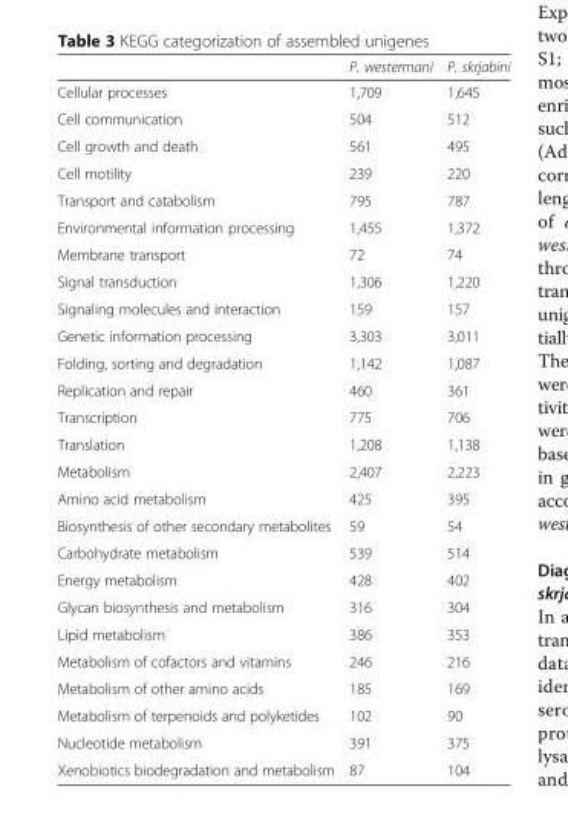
<table><thead><tr><td></td><td>P. westermani</td><td>P. skrjabini</td></tr></thead><tbody><tr><td>Cellular processes</td><td>1,709</td><td>1,645</td></tr><tr><td>Cell communication</td><td>504</td><td>512</td></tr><tr><td>Cell growth and death</td><td>561</td><td>495</td></tr><tr><td>Cell motility</td><td>239</td><td>220</td></tr><tr><td>Transport and catabolism</td><td>795</td><td>787</td></tr><tr><td>Environmental information processing</td><td>1,455</td><td>1,372</td></tr><tr><td>Membrane transport</td><td>72</td><td>74</td></tr><tr><td>Signal transduction</td><td>1,306</td><td>1,220</td></tr><tr><td>Signaling molecules and interaction</td><td>159</td><td>157</td></tr><tr><td>Genetic information processing</td><td>3,303</td><td>3,011</td></tr><tr><td>Folding, sorting and degradation</td><td>1,142</td><td>1,087</td></tr><tr><td>Replication and repair</td><td>460</td><td>361</td></tr><tr><td>Transcription</td><td>775</td><td>706</td></tr><tr><td>Translation</td><td>1,208</td><td>1,138</td></tr><tr><td>Metabolism</td><td>2,407</td><td>2,223</td></tr><tr><td>Amino acid metabolism</td><td>425</td><td>395</td></tr><tr><td>Biosynthesis of other secondary metabolites</td><td>59</td><td>54</td></tr><tr><td>Carbohydrate metabolism</td><td>539</td><td>514</td></tr><tr><td>Energy metabolism</td><td>428</td><td>402</td></tr><tr><td>Glycan biosynthesis and metabolism</td><td>316</td><td>304</td></tr><tr><td>Lipid metabolism</td><td>386</td><td>353</td></tr><tr><td>Metabolism of cofactors and vitamins</td><td>246</td><td>216</td></tr><tr><td>Metabolism of other amino acids</td><td>185</td><td>169</td></tr><tr><td>Metabolism of terpenoids and polyketides</td><td>102</td><td>90</td></tr><tr><td>Nucleotide metabolism</td><td>391</td><td>375</td></tr><tr><td>Xenobiotics biodegradation and metabolism</td><td>87</td><td>104</td></tr></tbody></table>